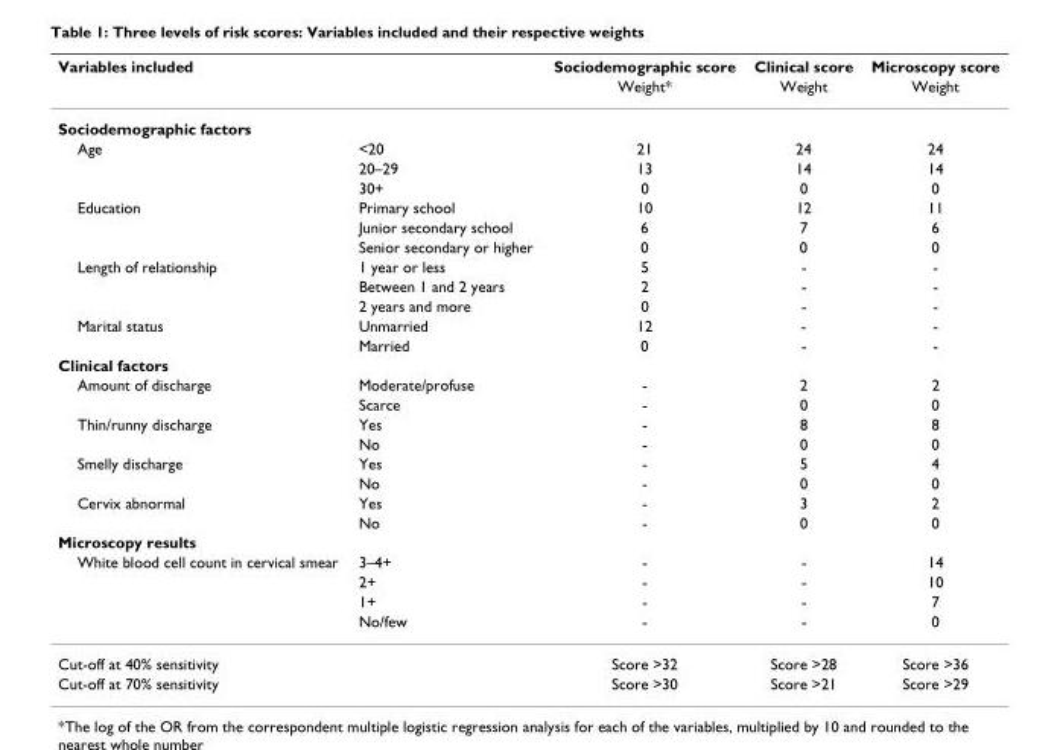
<table><thead><tr><td rowspan="2">Variables included</td><td rowspan="2"></td><td rowspan="2">Sociodemographic score Weight*</td><td rowspan="2">Clinical score Weight</td><td rowspan="2">Microscopy score Weight</td></tr><tr></tr></thead><tbody><tr><td colspan="5">Sociodemographic factors</td></tr><tr><td rowspan="3">Age</td><td>&lt;20</td><td>21</td><td>24</td><td>24</td></tr><tr><td>20–29</td><td>13</td><td>14</td><td>14</td></tr><tr><td>30+</td><td>0</td><td>0</td><td>0</td></tr><tr><td rowspan="3">Education</td><td>Primary school</td><td>10</td><td>12</td><td>11</td></tr><tr><td>Junior secondary school</td><td>6</td><td>7</td><td>6</td></tr><tr><td>Senior secondary or higher</td><td>0</td><td>0</td><td>0</td></tr><tr><td rowspan="3">Length of relationship</td><td>1 year or less</td><td>5</td><td>-</td><td>-</td></tr><tr><td>Between 1 and 2 years</td><td>2</td><td>-</td><td>-</td></tr><tr><td>2 years and more</td><td>0</td><td>-</td><td>-</td></tr><tr><td rowspan="2">Marital status</td><td>Unmarried</td><td>12</td><td>-</td><td>-</td></tr><tr><td>Married</td><td>0</td><td>-</td><td>-</td></tr><tr><td colspan="5">Clinical factors</td></tr><tr><td rowspan="2">Amount of discharge</td><td>Moderate/profuse</td><td>-</td><td>2</td><td>2</td></tr><tr><td>Scarce</td><td>-</td><td>0</td><td>0</td></tr><tr><td rowspan="2">Thin/runny discharge</td><td>Yes</td><td>-</td><td>8</td><td>8</td></tr><tr><td>No</td><td>-</td><td>0</td><td>0</td></tr><tr><td rowspan="2">Smelly discharge</td><td>Yes</td><td>-</td><td>5</td><td>4</td></tr><tr><td>No</td><td>-</td><td>0</td><td>0</td></tr><tr><td rowspan="2">Cervix abnormal</td><td>Yes</td><td>-</td><td>3</td><td>2</td></tr><tr><td>No</td><td>-</td><td>0</td><td>0</td></tr><tr><td colspan="5">Microscopy results</td></tr><tr><td rowspan="4">White blood cell count in cervical smear</td><td>3–4+</td><td>-</td><td>-</td><td>14</td></tr><tr><td>2+</td><td>-</td><td>-</td><td>10</td></tr><tr><td>1+</td><td>-</td><td>-</td><td>7</td></tr><tr><td>No/few</td><td>-</td><td>-</td><td>0</td></tr><tr><td>Cut-off at 40% sensitivity</td><td></td><td>Score &gt;32</td><td>Score &gt;28</td><td>Score &gt;36</td></tr><tr><td>Cut-off at 70% sensitivity</td><td></td><td>Score &gt;30</td><td>Score &gt;21</td><td>Score &gt;29</td></tr></tbody></table>